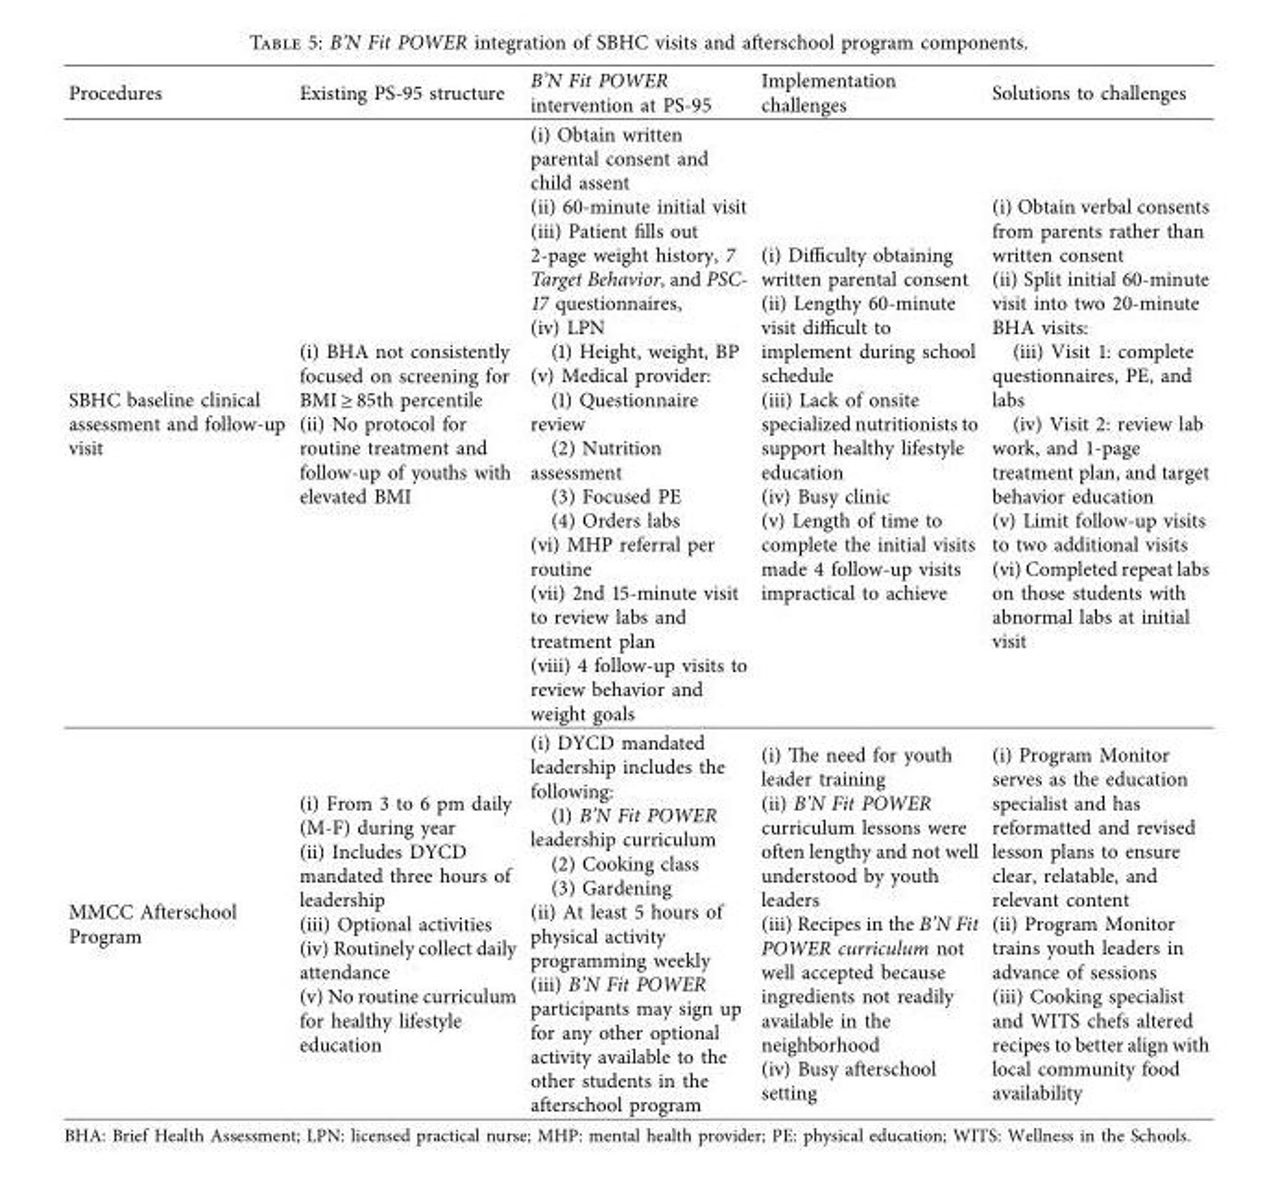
<table><thead><tr><td>Procedures</td><td>Existing PS-95 structure</td><td>B’N Fit POWER intervention at PS-95</td><td>Implementation challenges</td><td>Solutions to challenges</td></tr></thead><tbody><tr><td>SBHC baseline clinical assessment and follow-up visit</td><td>(i) BHA not consistently focused on screening for BMI ≥ 85th percentile (ii) No protocol for routine treatment and follow-up of youths with elevated BMI</td><td>(i) Obtain written parental consent and child assent (ii) 60-minute initial visit (iii) Patient fills out 2-page weight history, 7 Target Behavior, and PSC- 17 questionnaires, (iv) LPN (1) Height, weight, BP (v) Medical provider: (1) Questionnaire review (2) Nutrition assessment (3) Focused PE (4) Orders labs (vi) MHP referral per routine (vii) 2nd 15-minute visit to review labs and treatment plan (viii) 4 follow-up visits to review behavior and weight goals</td><td>(i) Difficulty obtaining written parental consent (ii) Lengthy 60-minute visit difficult to implement during school schedule (iii) Lack of onsite specialized nutritionists to support healthy lifestyle education (iv) Busy clinic (v) Length of time to complete the initial visits made 4 follow-up visits impractical to achieve</td><td>(i) Obtain verbal consents from parents rather than written consent (ii) Split initial 60-minute visit into two 20-minute BHA visits: (iii) Visit 1: complete questionnaires, PE, and labs (iv) Visit 2: review lab work, and 1-page treatment plan, and target behavior education (v) Limit follow-up visits to two additional visits (vi) Completed repeat labs on those students with abnormal labs at initial visit</td></tr><tr><td>MMCC Afterschool Program</td><td>(i) From 3 to 6 pm daily (M-F) during year (ii) Includes DYCD mandated three hours of leadership (iii) Optional activities (iv) Routinely collect daily attendance (v) No routine curriculum for healthy lifestyle education</td><td>(i) DYCD mandated leadership includes the following: (1) B’N Fit POWER leadership curriculum (2) Cooking class (3) Gardening (ii) At least 5 hours of physical activity programming weekly (iii) B’N Fit POWER participants may sign up for any other optional activity available to the other students in the afterschool program</td><td>(i) Te need for youth leader training (ii) B’N Fit POWER curriculum lessons were often lengthy and not well understood by youth leaders (iii) Recipes in the B’N Fit POWER curriculum not well accepted because ingredients not readily available in the neighborhood (iv) Busy afterschool setting</td><td>(i) Program Monitor serves as the education specialist and has reformatted and revised lesson plans to ensure clear, relatable, and relevant content (ii) Program Monitor trains youth leaders in advance of sessions (iii) Cooking specialist and WITS chefs altered recipes to better align with local community food availability</td></tr></tbody></table>